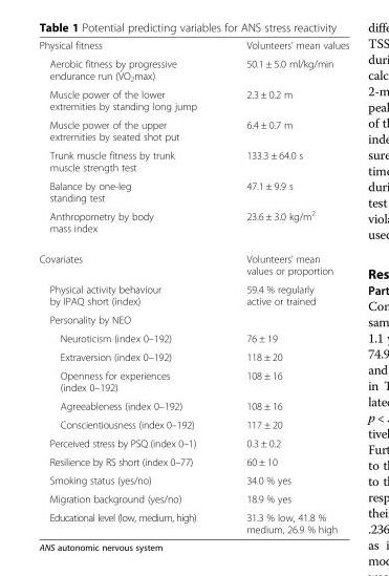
<table><tbody><tr><td>Physical fitness</td><td>Volunteers’ mean values</td></tr><tr><td>Aerobic fitness by progressive endurance run (V̇O<sub>2</sub>max)</td><td>50.1 ± 5.0 ml/kg/min</td></tr><tr><td>Muscle power of the lower extremities by standing long jump</td><td>2.3 ± 0.2 m</td></tr><tr><td>Muscle power of the upper extremities by seated shot put</td><td>6.4 ± 0.7 m</td></tr><tr><td>Trunk muscle fitness by trunk muscle strength test</td><td>133.3 ± 64.0 s</td></tr><tr><td>Balance by one-leg standing test</td><td>47.1 ± 9.9 s</td></tr><tr><td>Anthropometry by body mass index</td><td>23.6 ± 3.0 kg/m<sup>2</sup></td></tr><tr><td>Covariates</td><td>Volunteers’ mean values or proportion</td></tr><tr><td>Physical activity behaviour by IPAQ short (index)</td><td>59.4 % regularly active or trained</td></tr><tr><td colspan="2">Personality by NEO</td></tr><tr><td>Neuroticism (index 0–192)</td><td>76 ± 19</td></tr><tr><td>Extraversion (index 0–192)</td><td>118 ± 20</td></tr><tr><td>Openness for experiences (index 0–192)</td><td>108 ± 16</td></tr><tr><td>Agreeableness (index 0–192)</td><td>108 ± 16</td></tr><tr><td>Conscientiousness (index 0–192)</td><td>117 ± 20</td></tr><tr><td>Perceived stress by PSQ (index 0–1)</td><td>0.3 ± 0.2</td></tr><tr><td>Resilience by RS short (index 0–77)</td><td>60 ± 10</td></tr><tr><td>Smoking status (yes/no)</td><td>34.0 % yes</td></tr><tr><td>Migration background (yes/no)</td><td>18.9 % yes</td></tr><tr><td>Educational level (low, medium, high)</td><td>31.3 % low, 41.8 % medium, 26.9 % high</td></tr></tbody></table>